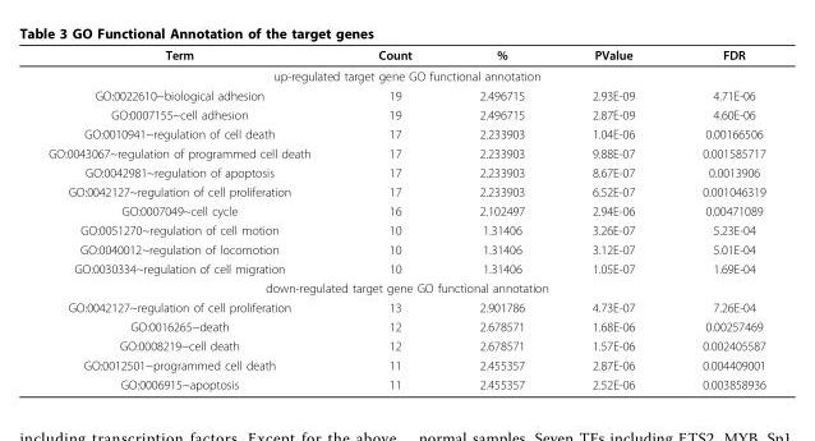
<table><thead><tr><td>Term</td><td>Count</td><td>%</td><td>PValue</td><td>FDR</td></tr></thead><tbody><tr><td colspan="5">up-regulated target gene GO functional annotation</td></tr><tr><td>GO:0022610~biological adhesion</td><td>19</td><td>2.496715</td><td>2.93E-09</td><td>4.71E-06</td></tr><tr><td>GO:0007155~cell adhesion</td><td>19</td><td>2.496715</td><td>2.87E-09</td><td>4.60E-06</td></tr><tr><td>GO:0010941~regulation of cell death</td><td>17</td><td>2.233903</td><td>1.04E-06</td><td>0.00166506</td></tr><tr><td>GO:0043067~regulation of programmed cell death</td><td>17</td><td>2.233903</td><td>9.88E-07</td><td>0.001585717</td></tr><tr><td>GO:0042981~regulation of apoptosis</td><td>17</td><td>2.233903</td><td>8.67E-07</td><td>0.0013906</td></tr><tr><td>GO:0042127~regulation of cell proliferation</td><td>17</td><td>2.233903</td><td>6.52E-07</td><td>0.001046319</td></tr><tr><td>GO:0007049~cell cycle</td><td>16</td><td>2.102497</td><td>2.94E-06</td><td>0.00471089</td></tr><tr><td>GO:0051270~regulation of cell motion</td><td>10</td><td>1.31406</td><td>3.26E-07</td><td>5.23E-04</td></tr><tr><td>GO:0040012~regulation of locomotion</td><td>10</td><td>1.31406</td><td>3.12E-07</td><td>5.01E-04</td></tr><tr><td>GO:0030334~regulation of cell migration</td><td>10</td><td>1.31406</td><td>1.05E-07</td><td>1.69E-04</td></tr><tr><td colspan="5">down-regulated target gene GO functional annotation</td></tr><tr><td>GO:0042127~regulation of cell proliferation</td><td>13</td><td>2.901786</td><td>4.73E-07</td><td>7.26E-04</td></tr><tr><td>GO:0016265~death</td><td>12</td><td>2.678571</td><td>1.68E-06</td><td>0.00257469</td></tr><tr><td>GO:0008219~cell death</td><td>12</td><td>2.678571</td><td>1.57E-06</td><td>0.002405587</td></tr><tr><td>GO:0012501~programmed cell death</td><td>11</td><td>2.455357</td><td>2.87E-06</td><td>0.004409001</td></tr><tr><td>GO:0006915~apoptosis</td><td>11</td><td>2.455357</td><td>2.52E-06</td><td>0.003858936</td></tr></tbody></table>